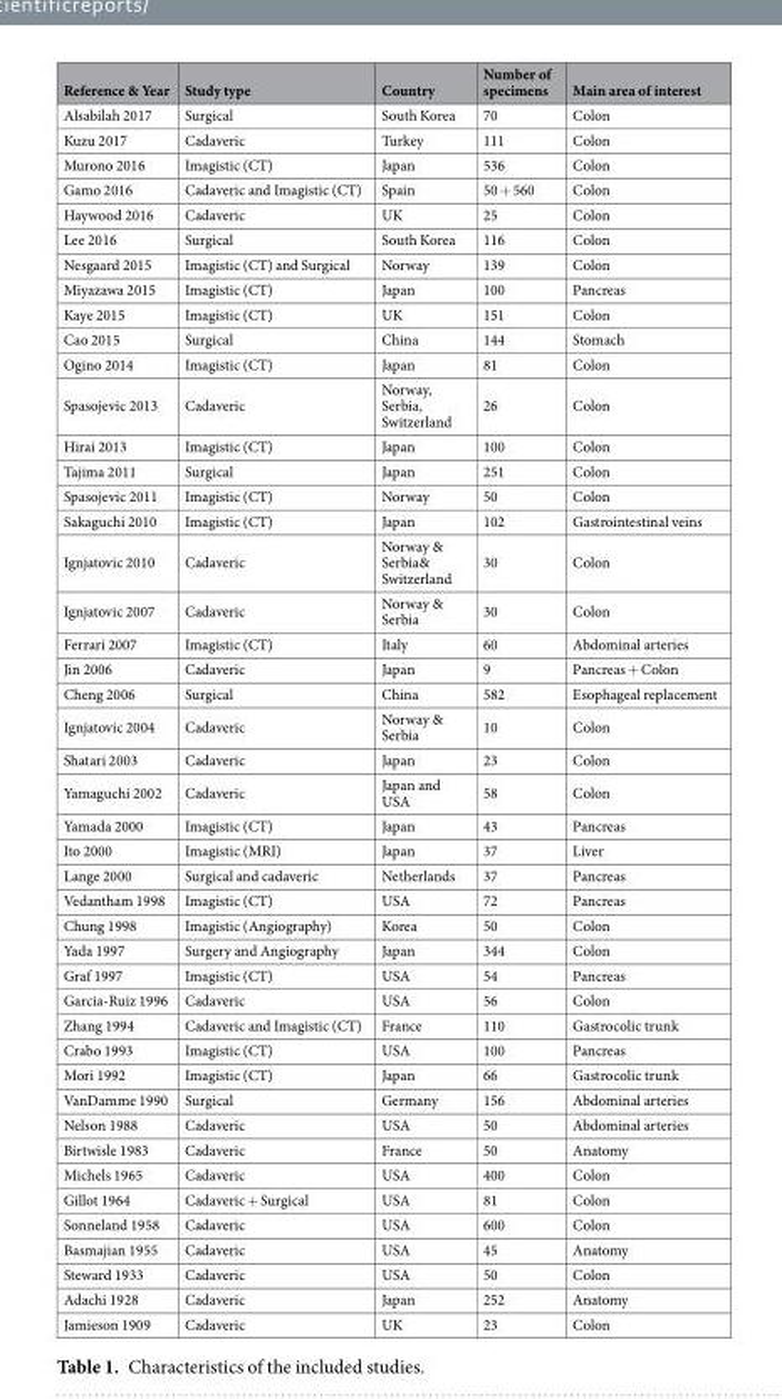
<table><thead><tr><td>Reference &amp; Year</td><td>Study type</td><td>Country</td><td>Number of specimens</td><td>Main area of interest</td></tr></thead><tbody><tr><td>Alsabilah 2017</td><td>Surgical</td><td>South Korea</td><td>70</td><td>Colon</td></tr><tr><td>Kuzu 2017</td><td>Cadaveric</td><td>Turkey</td><td>111</td><td>Colon</td></tr><tr><td>Murono 2016</td><td>Imagistic (CT)</td><td>Japan</td><td>536</td><td>Colon</td></tr><tr><td>Gamo 2016</td><td>Cadaveric and Imagistic (CT)</td><td>Spain</td><td>50 + 560</td><td>Colon</td></tr><tr><td>Haywood 2016</td><td>Cadaveric</td><td>UK</td><td>25</td><td>Colon</td></tr><tr><td>Lee 2016</td><td>Surgical</td><td>South Korea</td><td>116</td><td>Colon</td></tr><tr><td>Nesgaard 2015</td><td>Imagistic (CT) and Surgical</td><td>Norway</td><td>139</td><td>Colon</td></tr><tr><td>Miyazawa 2015</td><td>Imagistic (CT)</td><td>Japan</td><td>100</td><td>Pancreas</td></tr><tr><td>Kaye 2015</td><td>Imagistic (CT)</td><td>UK</td><td>151</td><td>Colon</td></tr><tr><td>Cao 2015</td><td>Surgical</td><td>China</td><td>144</td><td>Stomach</td></tr><tr><td>Ogino 2014</td><td>Imagistic (CT)</td><td>Japan</td><td>81</td><td>Colon</td></tr><tr><td>Spasojevic 2013</td><td>Cadaveric</td><td>Norway, Serbia, Switzerland</td><td>26</td><td>Colon</td></tr><tr><td>Hirai 2013</td><td>Imagistic (CT)</td><td>Japan</td><td>100</td><td>Colon</td></tr><tr><td>Tajima 2011</td><td>Surgical</td><td>Japan</td><td>251</td><td>Colon</td></tr><tr><td>Spasojevic 2011</td><td>Imagistic (CT)</td><td>Norway</td><td>50</td><td>Colon</td></tr><tr><td>Sakaguchi 2010</td><td>Imagistic (CT)</td><td>Japan</td><td>102</td><td>Gastrointestinal veins</td></tr><tr><td>Ignjatovic 2010</td><td>Cadaveric</td><td>Norway &amp; Serbia&amp; Switzerland</td><td>30</td><td>Colon</td></tr><tr><td>Ignjatovic 2007</td><td>Cadaveric</td><td>Norway &amp; Serbia</td><td>30</td><td>Colon</td></tr><tr><td>Ferrari 2007</td><td>Imagistic (CT)</td><td>Italy</td><td>60</td><td>Abdominal arteries</td></tr><tr><td>Jin 2006</td><td>Cadaveric</td><td>Japan</td><td>9</td><td>Pancreas + Colon</td></tr><tr><td>Cheng 2006</td><td>Surgical</td><td>China</td><td>582</td><td>Esophageal replacement</td></tr><tr><td>Ignjatovic 2004</td><td>Cadaveric</td><td>Norway &amp; Serbia</td><td>10</td><td>Colon</td></tr><tr><td>Shatari 2003</td><td>Cadaveric</td><td>Japan</td><td>23</td><td>Colon</td></tr><tr><td>Yamaguchi 2002</td><td>Cadaveric</td><td>Japan and USA</td><td>58</td><td>Colon</td></tr><tr><td>Yamada 2000</td><td>Imagistic (CT)</td><td>Japan</td><td>43</td><td>Pancreas</td></tr><tr><td>Ito 2000</td><td>Imagistic (MRI)</td><td>Japan</td><td>37</td><td>Liver</td></tr><tr><td>Lange 2000</td><td>Surgical and cadaveric</td><td>Netherlands</td><td>37</td><td>Pancreas</td></tr><tr><td>Vedantham 1998</td><td>Imagistic (CT)</td><td>USA</td><td>72</td><td>Pancreas</td></tr><tr><td>Chung 1998</td><td>Imagistic (Angiography)</td><td>Korea</td><td>50</td><td>Colon</td></tr><tr><td>Yada 1997</td><td>Surgery and Angiography</td><td>Japan</td><td>344</td><td>Colon</td></tr><tr><td>Graf 1997</td><td>Imagistic (CT)</td><td>USA</td><td>54</td><td>Pancreas</td></tr><tr><td>Garcia-Ruiz 1996</td><td>Cadaveric</td><td>USA</td><td>56</td><td>Colon</td></tr><tr><td>Zhang 1994</td><td>Cadaveric and Imagistic (CT)</td><td>France</td><td>110</td><td>Gastrocolic trunk</td></tr><tr><td>Crabo 1993</td><td>Imagistic (CT)</td><td>USA</td><td>100</td><td>Pancreas</td></tr><tr><td>Mori 1992</td><td>Imagistic (CT)</td><td>Japan</td><td>66</td><td>Gastrocolic trunk</td></tr><tr><td>VanDamme 1990</td><td>Surgical</td><td>Germany</td><td>156</td><td>Abdominal arteries</td></tr><tr><td>Nelson 1988</td><td>Cadaveric</td><td>USA</td><td>50</td><td>Abdominal arteries</td></tr><tr><td>Birtwisle 1983</td><td>Cadaveric</td><td>France</td><td>50</td><td>Anatomy</td></tr><tr><td>Michels 1965</td><td>Cadaveric</td><td>USA</td><td>400</td><td>Colon</td></tr><tr><td>Gillot 1964</td><td>Cadaveric + Surgical</td><td>USA</td><td>81</td><td>Colon</td></tr><tr><td>Sonneland 1958</td><td>Cadaveric</td><td>USA</td><td>600</td><td>Colon</td></tr><tr><td>Basmajian 1955</td><td>Cadaveric</td><td>USA</td><td>45</td><td>Anatomy</td></tr><tr><td>Steward 1933</td><td>Cadaveric</td><td>USA</td><td>50</td><td>Colon</td></tr><tr><td>Adachi 1928</td><td>Cadaveric</td><td>Japan</td><td>252</td><td>Anatomy</td></tr><tr><td>Jamieson 1909</td><td>Cadaveric</td><td>UK</td><td>23</td><td>Colon</td></tr></tbody></table>